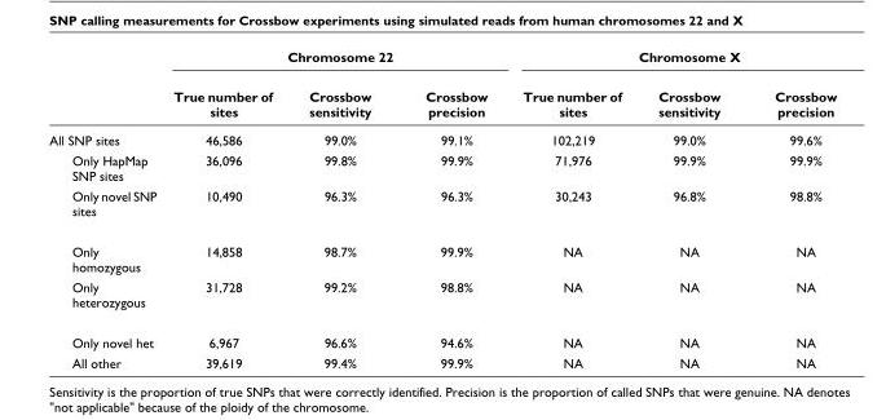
<table><thead><tr><td rowspan="2"></td><td colspan="3">Chromosome 22</td><td colspan="3">Chromosome X</td></tr><tr><td>True number of sites</td><td>Crossbow sensitivity</td><td>Crossbow precision</td><td>True number of sites</td><td>Crossbow sensitivity</td><td>Crossbow precision</td></tr></thead><tbody><tr><td>All SNP sites</td><td>46,586</td><td>99.0%</td><td>99.1%</td><td>102,219</td><td>99.0%</td><td>99.6%</td></tr><tr><td>Only HapMap SNP sites</td><td>36,096</td><td>99.8%</td><td>99.9%</td><td>71,976</td><td>99.9%</td><td>99.9%</td></tr><tr><td>Only novel SNP sites</td><td>10,490</td><td>96.3%</td><td>96.3%</td><td>30,243</td><td>96.8%</td><td>98.8%</td></tr><tr><td>Only homozygous</td><td>14,858</td><td>98.7%</td><td>99.9%</td><td>NA</td><td>NA</td><td>NA</td></tr><tr><td>Only heterozygous</td><td>31,728</td><td>99.2%</td><td>98.8%</td><td>NA</td><td>NA</td><td>NA</td></tr><tr><td>Only novel het</td><td>6,967</td><td>96.6%</td><td>94.6%</td><td>NA</td><td>NA</td><td>NA</td></tr><tr><td>All other</td><td>39,619</td><td>99.4%</td><td>99.9%</td><td>NA</td><td>NA</td><td>NA</td></tr></tbody></table>